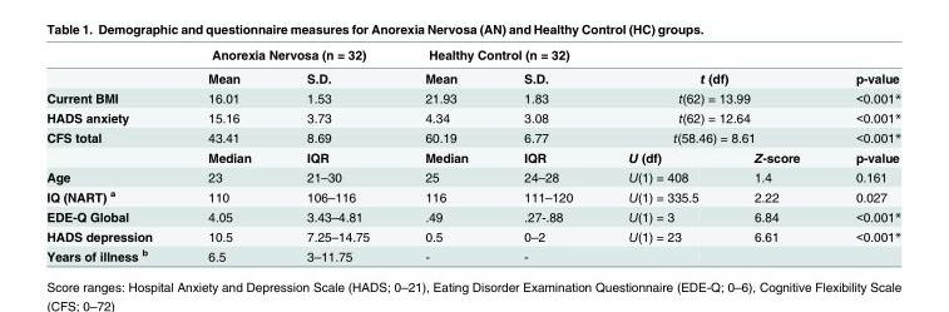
<table><thead><tr><td rowspan="2"></td><td colspan="2">Anorexia Nervosa (n = 32)</td><td colspan="2">Healthy Control (n = 32)</td><td></td><td></td><td rowspan="2">p-value</td></tr><tr><td>Mean</td><td>S.D.</td><td>Mean</td><td>S.D.</td><td colspan="2">t (df)</td></tr></thead><tbody><tr><td>Current BMI</td><td>16.01</td><td>1.53</td><td>21.93</td><td>1.83</td><td colspan="2">t(62) = 13.99</td><td>&lt;0.001*</td></tr><tr><td>HADS anxiety</td><td>15.16</td><td>3.73</td><td>4.34</td><td>3.08</td><td colspan="2">t(62) = 12.64</td><td>&lt;0.001*</td></tr><tr><td rowspan="2">CFS total</td><td>43.41</td><td>8.69</td><td>60.19</td><td>6.77</td><td colspan="2">t(58.46) = 8.61</td><td>&lt;0.001*</td></tr><tr><td>Median</td><td>IQR</td><td>Median</td><td>IQR</td><td>U (df)</td><td>Z-score</td><td>p-value</td></tr><tr><td>Age</td><td>23</td><td>21–30</td><td>25</td><td>24–28</td><td>U(1) = 408</td><td>1.4</td><td>0.161</td></tr><tr><td>IQ (NART) <sup>a</sup></td><td>110</td><td>106–116</td><td>116</td><td>111–120</td><td>U(1) = 335.5</td><td>2.22</td><td>0.027</td></tr><tr><td>EDE-Q Global</td><td>4.05</td><td>3.43–4.81</td><td>.49</td><td>.27-.88</td><td>U(1) = 3</td><td>6.84</td><td>&lt;0.001*</td></tr><tr><td>HADS depression</td><td>10.5</td><td>7.25–14.75</td><td>0.5</td><td>0–2</td><td>U(1) = 23</td><td>6.61</td><td>&lt;0.001*</td></tr><tr><td>Years of illness <sup>b</sup></td><td>6.5</td><td>3–11.75</td><td>-</td><td>-</td><td></td><td></td><td></td></tr></tbody></table>